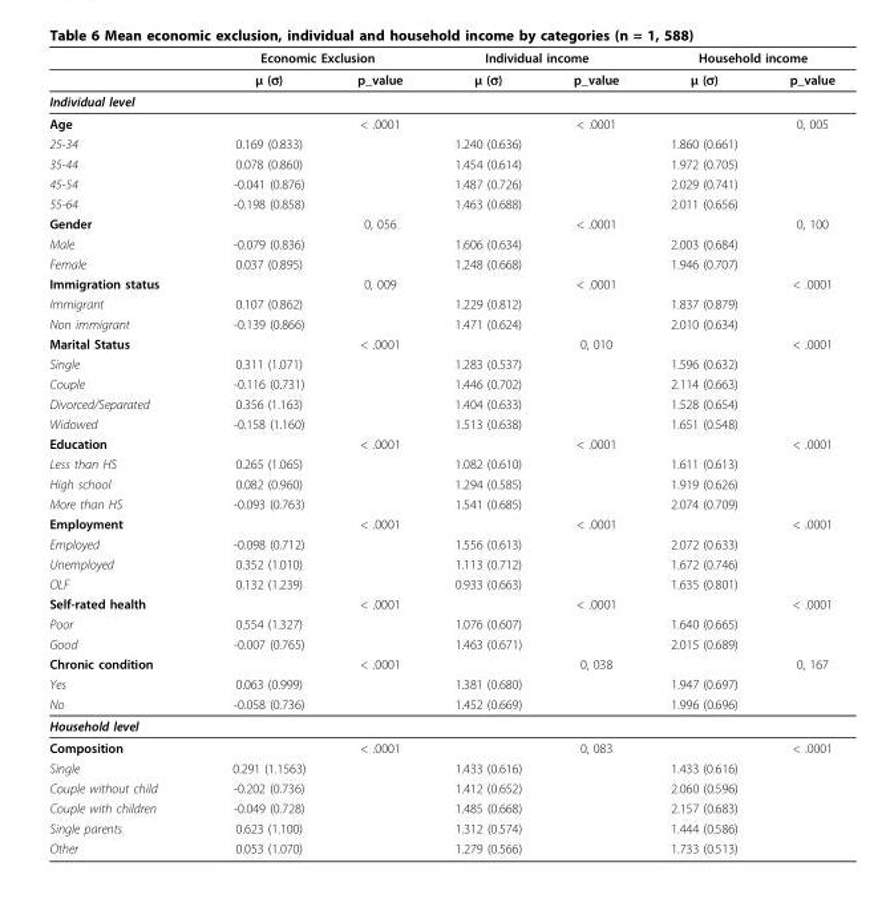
<table><thead><tr><td rowspan="2"></td><td colspan="2">Economic Exclusion</td><td colspan="2">Individual income</td><td colspan="2">Household income</td></tr><tr><td>μ (σ)</td><td>p_value</td><td>μ (σ)</td><td>p_value</td><td>μ (σ)</td><td>p_value</td></tr></thead><tbody><tr><td colspan="7">Individual level</td></tr><tr><td>Age</td><td></td><td>&lt; .0001</td><td></td><td>&lt; .0001</td><td></td><td>0, 005</td></tr><tr><td>25-34</td><td>0.169 (0.833)</td><td></td><td>1.240 (0.636)</td><td></td><td>1.860 (0.661)</td><td></td></tr><tr><td>35-44</td><td>0.078 (0.860)</td><td></td><td>1.454 (0.614)</td><td></td><td>1.972 (0.705)</td><td></td></tr><tr><td>45-54</td><td>-0.041 (0.876)</td><td></td><td>1.487 (0.726)</td><td></td><td>2.029 (0.741)</td><td></td></tr><tr><td>55-64</td><td>-0.198 (0.858)</td><td></td><td>1.463 (0.688)</td><td></td><td>2.011 (0.656)</td><td></td></tr><tr><td>Gender</td><td></td><td>0, 056</td><td></td><td>&lt; .0001</td><td></td><td>0, 100</td></tr><tr><td>Male</td><td>-0.079 (0.836)</td><td></td><td>1.606 (0.634)</td><td></td><td>2.003 (0.684)</td><td></td></tr><tr><td>Female</td><td>0.037 (0.895)</td><td></td><td>1.248 (0.668)</td><td></td><td>1.946 (0.707)</td><td></td></tr><tr><td>Immigration status</td><td></td><td>0, 009</td><td></td><td>&lt; .0001</td><td></td><td>&lt; .0001</td></tr><tr><td>Immigrant</td><td>0.107 (0.862)</td><td></td><td>1.229 (0.812)</td><td></td><td>1.837 (0.879)</td><td></td></tr><tr><td>Non immigrant</td><td>-0.139 (0.866)</td><td></td><td>1.471 (0.624)</td><td></td><td>2.010 (0.634)</td><td></td></tr><tr><td>Marital Status</td><td></td><td>&lt; .0001</td><td></td><td>0, 010</td><td></td><td>&lt; .0001</td></tr><tr><td>Single</td><td>0.311 (1.071)</td><td></td><td>1.283 (0.537)</td><td></td><td>1.596 (0.632)</td><td></td></tr><tr><td>Couple</td><td>-0.116 (0.731)</td><td></td><td>1.446 (0.702)</td><td></td><td>2.114 (0.663)</td><td></td></tr><tr><td>Divorced/Separated</td><td>0.356 (1.163)</td><td></td><td>1.404 (0.633)</td><td></td><td>1.528 (0.654)</td><td></td></tr><tr><td>Widowed</td><td>-0.158 (1.160)</td><td></td><td>1.513 (0.638)</td><td></td><td>1.651 (0.548)</td><td></td></tr><tr><td>Education</td><td></td><td>&lt; .0001</td><td></td><td>&lt; .0001</td><td></td><td>&lt; .0001</td></tr><tr><td>Less than HS</td><td>0.265 (1.065)</td><td></td><td>1.082 (0.610)</td><td></td><td>1.611 (0.613)</td><td></td></tr><tr><td>High school</td><td>0.082 (0.960)</td><td></td><td>1.294 (0.585)</td><td></td><td>1.919 (0.626)</td><td></td></tr><tr><td>More than HS</td><td>-0.093 (0.763)</td><td></td><td>1.541 (0.685)</td><td></td><td>2.074 (0.709)</td><td></td></tr><tr><td>Employment</td><td></td><td>&lt; .0001</td><td></td><td>&lt; .0001</td><td></td><td>&lt; .0001</td></tr><tr><td>Employed</td><td>-0.098 (0.712)</td><td></td><td>1.556 (0.613)</td><td></td><td>2.072 (0.633)</td><td></td></tr><tr><td>Unemployed</td><td>0.352 (1.010)</td><td></td><td>1.113 (0.712)</td><td></td><td>1.672 (0.746)</td><td></td></tr><tr><td>OLF</td><td>0.132 (1.239)</td><td></td><td>0.933 (0.663)</td><td></td><td>1.635 (0.801)</td><td></td></tr><tr><td>Self-rated health</td><td></td><td>&lt; .0001</td><td></td><td>&lt; .0001</td><td></td><td>&lt; .0001</td></tr><tr><td>Poor</td><td>0.554 (1.327)</td><td></td><td>1.076 (0.607)</td><td></td><td>1.640 (0.665)</td><td></td></tr><tr><td>Good</td><td>-0.007 (0.765)</td><td></td><td>1.463 (0.671)</td><td></td><td>2.015 (0.689)</td><td></td></tr><tr><td>Chronic condition</td><td></td><td>&lt; .0001</td><td></td><td>0, 038</td><td></td><td>0, 167</td></tr><tr><td>Yes</td><td>0.063 (0.999)</td><td></td><td>1.381 (0.680)</td><td></td><td>1.947 (0.697)</td><td></td></tr><tr><td>No</td><td>-0.058 (0.736)</td><td></td><td>1.452 (0.669)</td><td></td><td>1.996 (0.696)</td><td></td></tr><tr><td colspan="7">Household level</td></tr><tr><td>Composition</td><td></td><td>&lt; .0001</td><td></td><td>0, 083</td><td></td><td>&lt; .0001</td></tr><tr><td>Single</td><td>0.291 (1.1563)</td><td></td><td>1.433 (0.616)</td><td></td><td>1.433 (0.616)</td><td></td></tr><tr><td>Couple without child</td><td>-0.202 (0.736)</td><td></td><td>1.412 (0.652)</td><td></td><td>2.060 (0.596)</td><td></td></tr><tr><td>Couple with children</td><td>-0.049 (0.728)</td><td></td><td>1.485 (0.668)</td><td></td><td>2.157 (0.683)</td><td></td></tr><tr><td>Single parents</td><td>0.623 (1.100)</td><td></td><td>1.312 (0.574)</td><td></td><td>1.444 (0.586)</td><td></td></tr><tr><td>Other</td><td>0.053 (1.070)</td><td></td><td>1.279 (0.566)</td><td></td><td>1.733 (0.513)</td><td></td></tr></tbody></table>